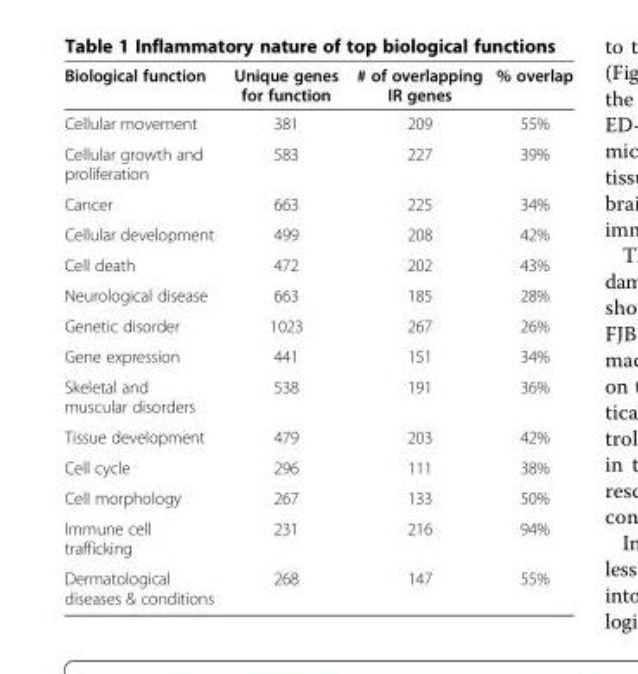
<table><thead><tr><td>Biological function</td><td>Unique genes for function</td><td># of overlapping IR genes</td><td>% overlap</td></tr></thead><tbody><tr><td>Cellular movement</td><td>381</td><td>209</td><td>55%</td></tr><tr><td>Cellular growth and proliferation</td><td>583</td><td>227</td><td>39%</td></tr><tr><td>Cancer</td><td>663</td><td>225</td><td>34%</td></tr><tr><td>Cellular development</td><td>499</td><td>208</td><td>42%</td></tr><tr><td>Cell death</td><td>472</td><td>202</td><td>43%</td></tr><tr><td>Neurological disease</td><td>663</td><td>185</td><td>28%</td></tr><tr><td>Genetic disorder</td><td>1023</td><td>267</td><td>26%</td></tr><tr><td>Gene expression</td><td>441</td><td>151</td><td>34%</td></tr><tr><td>Skeletal and muscular disorders</td><td>538</td><td>191</td><td>36%</td></tr><tr><td>Tissue development</td><td>479</td><td>203</td><td>42%</td></tr><tr><td>Cell cycle</td><td>296</td><td>111</td><td>38%</td></tr><tr><td>Cell morphology</td><td>267</td><td>133</td><td>50%</td></tr><tr><td>Immune cell trafficking</td><td>231</td><td>216</td><td>94%</td></tr><tr><td>Dermatological diseases &amp; conditions</td><td>268</td><td>147</td><td>55%</td></tr></tbody></table>